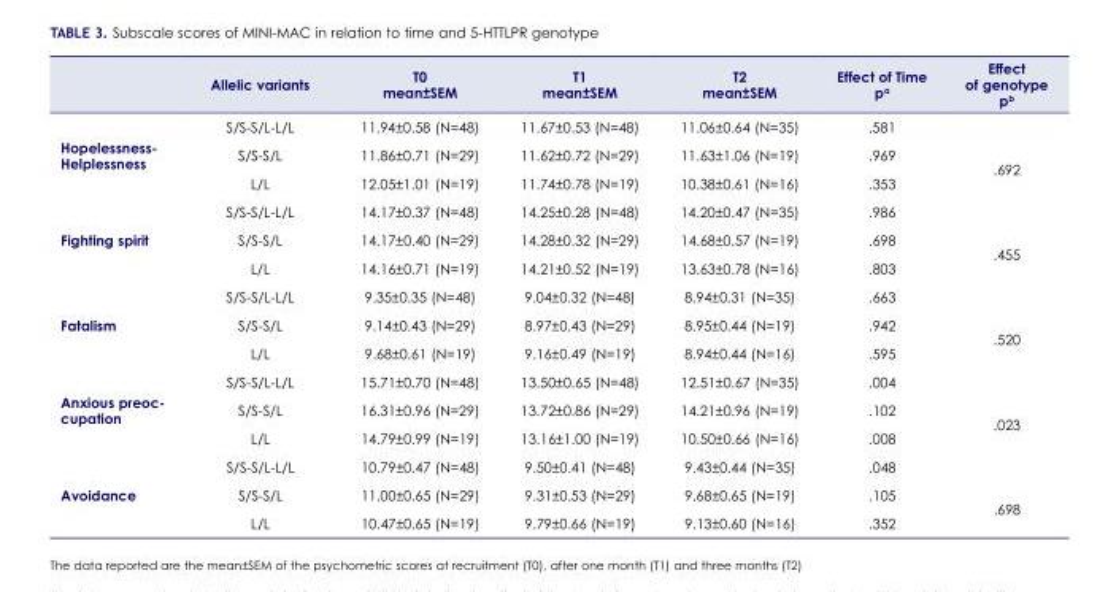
<table><thead><tr><td></td><td>Allelic variants</td><td>T0 mean±SEM</td><td>T1 mean±SEM</td><td>T2 mean±SEM</td><td>Effect of Time p<sup>a</sup></td><td>Effect of genotype p<sup>b</sup></td></tr></thead><tbody><tr><td rowspan="3">Hopelessness- Helplessness</td><td>S/S-S/L-L/L</td><td>11.94±0.58 (N=48)</td><td>11.67±0.53 (N=48)</td><td>11.06±0.64 (N=35)</td><td>.581</td><td rowspan="3">.692</td></tr><tr><td>S/S-S/L</td><td>11.86±0.71 (N=29)</td><td>11.62±0.72 (N=29)</td><td>11.63±1.06 (N=19)</td><td>.969</td></tr><tr><td>L/L</td><td>12.05±1.01 (N=19)</td><td>11.74±0.78 (N=19)</td><td>10.38±0.61 (N=16)</td><td>.353</td></tr><tr><td rowspan="3">Fighting spirit</td><td>S/S-S/L-L/L</td><td>14.17±0.37 (N=48)</td><td>14.25±0.28 (N=48)</td><td>14.20±0.47 (N=35)</td><td>.986</td><td rowspan="3">.455</td></tr><tr><td>S/S-S/L</td><td>14.17±0.40 (N=29)</td><td>14.28±0.32 (N=29)</td><td>14.68±0.57 (N=19)</td><td>.698</td></tr><tr><td>L/L</td><td>14.16±0.71 (N=19)</td><td>14.21±0.52 (N=19)</td><td>13.63±0.78 (N=16)</td><td>.803</td></tr><tr><td rowspan="3">Fatalism</td><td>S/S-S/L-L/L</td><td>9.35±0.35 (N=48)</td><td>9.04±0.32 (N=48)</td><td>8.94±0.31 (N=35)</td><td>.663</td><td rowspan="3">.520</td></tr><tr><td>S/S-S/L</td><td>9.14±0.43 (N=29)</td><td>8.97±0.43 (N=29)</td><td>8.95±0.44 (N=19)</td><td>.942</td></tr><tr><td>L/L</td><td>9.68±0.61 (N=19)</td><td>9.16±0.49 (N=19)</td><td>8.94±0.44 (N=16)</td><td>.595</td></tr><tr><td rowspan="3">Anxious preoc- cupation</td><td>S/S-S/L-L/L</td><td>15.71±0.70 (N=48)</td><td>13.50±0.65 (N=48)</td><td>12.51±0.67 (N=35)</td><td>.004</td><td rowspan="3">.023</td></tr><tr><td>S/S-S/L</td><td>16.31±0.96 (N=29)</td><td>13.72±0.86 (N=29)</td><td>14.21±0.96 (N=19)</td><td>.102</td></tr><tr><td>L/L</td><td>14.79±0.99 (N=19)</td><td>13.16±1.00 (N=19)</td><td>10.50±0.66 (N=16)</td><td>.008</td></tr><tr><td rowspan="3">Avoidance</td><td>S/S-S/L-L/L</td><td>10.79±0.47 (N=48)</td><td>9.50±0.41 (N=48)</td><td>9.43±0.44 (N=35)</td><td>.048</td><td rowspan="3">.698</td></tr><tr><td>S/S-S/L</td><td>11.00±0.65 (N=29)</td><td>9.31±0.53 (N=29)</td><td>9.68±0.65 (N=19)</td><td>.105</td></tr><tr><td>L/L</td><td>10.47±0.65 (N=19)</td><td>9.79±0.66 (N=19)</td><td>9.13±0.60 (N=16)</td><td>.352</td></tr></tbody></table>